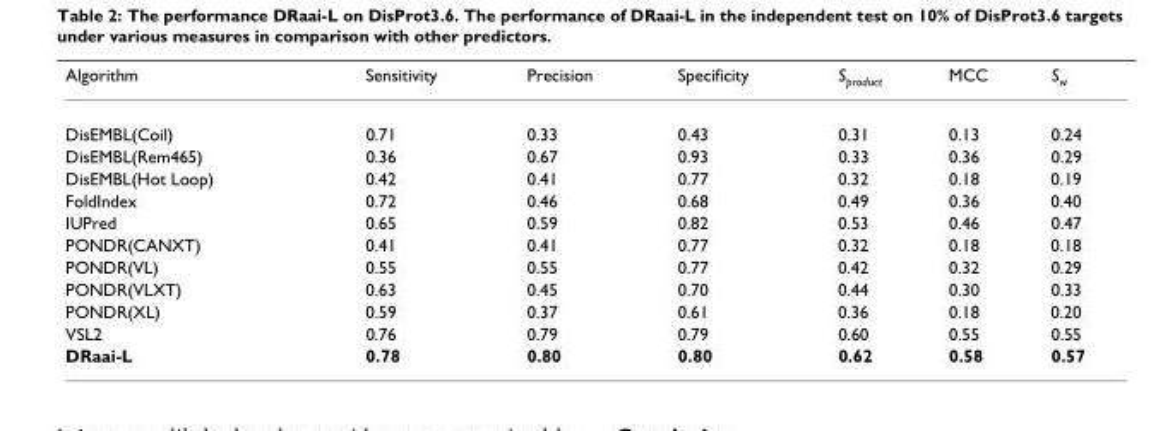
<table><thead><tr><td>Algorithm</td><td>Sensitivity</td><td>Precision</td><td>Specificity</td><td>S<sub>product</sub></td><td>MCC</td><td>S<sub>w</sub></td></tr></thead><tbody><tr><td>DisEMBL(Coil)</td><td>0.71</td><td>0.33</td><td>0.43</td><td>0.31</td><td>0.13</td><td>0.24</td></tr><tr><td>DisEMBL(Rem465)</td><td>0.36</td><td>0.67</td><td>0.93</td><td>0.33</td><td>0.36</td><td>0.29</td></tr><tr><td>DisEMBL(Hot Loop)</td><td>0.42</td><td>0.41</td><td>0.77</td><td>0.32</td><td>0.18</td><td>0.19</td></tr><tr><td>FoldIndex</td><td>0.72</td><td>0.46</td><td>0.68</td><td>0.49</td><td>0.36</td><td>0.40</td></tr><tr><td>IUPred</td><td>0.65</td><td>0.59</td><td>0.82</td><td>0.53</td><td>0.46</td><td>0.47</td></tr><tr><td>PONDR(CANXT)</td><td>0.41</td><td>0.41</td><td>0.77</td><td>0.32</td><td>0.18</td><td>0.18</td></tr><tr><td>PONDR(VL)</td><td>0.55</td><td>0.55</td><td>0.77</td><td>0.42</td><td>0.32</td><td>0.29</td></tr><tr><td>PONDR(VLXT)</td><td>0.63</td><td>0.45</td><td>0.70</td><td>0.44</td><td>0.30</td><td>0.33</td></tr><tr><td>PONDR(XL)</td><td>0.59</td><td>0.37</td><td>0.61</td><td>0.36</td><td>0.18</td><td>0.20</td></tr><tr><td>VSL2</td><td>0.76</td><td>0.79</td><td>0.79</td><td>0.60</td><td>0.55</td><td>0.55</td></tr><tr><td>DRaai-L</td><td>0.78</td><td>0.80</td><td>0.80</td><td>0.62</td><td>0.58</td><td>0.57</td></tr></tbody></table>